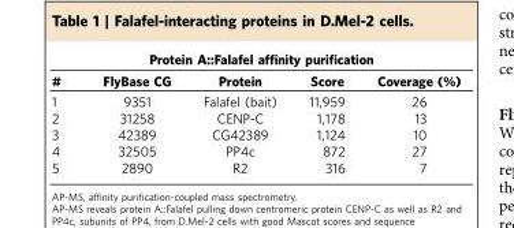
<table><thead><tr><td colspan="5">Protein A::Falafel affinity purification</td></tr><tr><td>#</td><td>FlyBase CG</td><td>Protein</td><td>Score</td><td>Coverage (%)</td></tr></thead><tbody><tr><td>1</td><td>9351</td><td>Falafel (bait)</td><td>11,959</td><td>26</td></tr><tr><td>2</td><td>31258</td><td>CENP-C</td><td>1,178</td><td>13</td></tr><tr><td>3</td><td>42389</td><td>CG42389</td><td>1,124</td><td>10</td></tr><tr><td>4</td><td>32505</td><td>PP4c</td><td>872</td><td>27</td></tr><tr><td>5</td><td>2890</td><td>R2</td><td>316</td><td>7</td></tr></tbody></table>